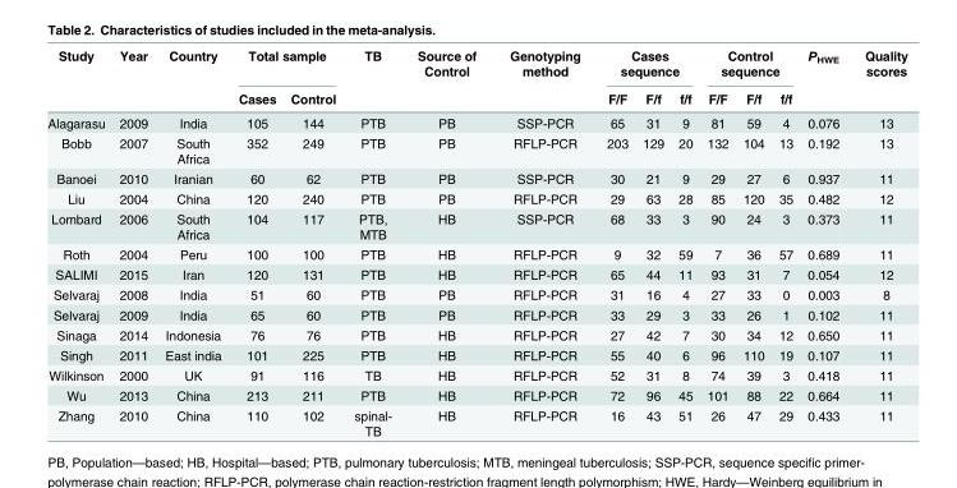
<table><thead><tr><td rowspan="2">Study</td><td rowspan="2">Year</td><td rowspan="2">Country</td><td colspan="2">Total sample</td><td rowspan="2">TB</td><td rowspan="2">Source of Control</td><td rowspan="2">Genotyping method</td><td colspan="3">Cases sequence</td><td colspan="3">Control sequence</td><td rowspan="2">P<sub>HWE</sub></td><td rowspan="2">Quality scores</td></tr><tr><td>Cases</td><td>Control</td><td>F/F</td><td>F/f</td><td>f/f</td><td>F/F</td><td>F/f</td><td>f/f</td></tr></thead><tbody><tr><td>Alagarasu</td><td>2009</td><td>India</td><td>105</td><td>144</td><td>PTB</td><td>PB</td><td>SSP-PCR</td><td>65</td><td>31</td><td>9</td><td>81</td><td>59</td><td>4</td><td>0.076</td><td>13</td></tr><tr><td>Bobb</td><td>2007</td><td>South Africa</td><td>352</td><td>249</td><td>PTB</td><td>PB</td><td>RFLP-PCR</td><td>203</td><td>129</td><td>20</td><td>132</td><td>104</td><td>13</td><td>0.192</td><td>13</td></tr><tr><td>Banoei</td><td>2010</td><td>Iranian</td><td>60</td><td>62</td><td>PTB</td><td>PB</td><td>SSP-PCR</td><td>30</td><td>21</td><td>9</td><td>29</td><td>27</td><td>6</td><td>0.937</td><td>11</td></tr><tr><td>Liu</td><td>2004</td><td>China</td><td>120</td><td>240</td><td>PTB</td><td>PB</td><td>RFLP-PCR</td><td>29</td><td>63</td><td>28</td><td>85</td><td>120</td><td>35</td><td>0.482</td><td>12</td></tr><tr><td>Lombard</td><td>2006</td><td>South Africa</td><td>104</td><td>117</td><td>PTB, MTB</td><td>HB</td><td>SSP-PCR</td><td>68</td><td>33</td><td>3</td><td>90</td><td>24</td><td>3</td><td>0.373</td><td>11</td></tr><tr><td>Roth</td><td>2004</td><td>Peru</td><td>100</td><td>100</td><td>PTB</td><td>HB</td><td>RFLP-PCR</td><td>9</td><td>32</td><td>59</td><td>7</td><td>36</td><td>57</td><td>0.689</td><td>11</td></tr><tr><td>SALIMI</td><td>2015</td><td>Iran</td><td>120</td><td>131</td><td>PTB</td><td>HB</td><td>RFLP-PCR</td><td>65</td><td>44</td><td>11</td><td>93</td><td>31</td><td>7</td><td>0.054</td><td>12</td></tr><tr><td>Selvaraj</td><td>2008</td><td>India</td><td>51</td><td>60</td><td>PTB</td><td>PB</td><td>RFLP-PCR</td><td>31</td><td>16</td><td>4</td><td>27</td><td>33</td><td>0</td><td>0.003</td><td>8</td></tr><tr><td>Selvaraj</td><td>2009</td><td>India</td><td>65</td><td>60</td><td>PTB</td><td>PB</td><td>RFLP-PCR</td><td>33</td><td>29</td><td>3</td><td>33</td><td>26</td><td>1</td><td>0.102</td><td>11</td></tr><tr><td>Sinaga</td><td>2014</td><td>Indonesia</td><td>76</td><td>76</td><td>PTB</td><td>HB</td><td>RFLP-PCR</td><td>27</td><td>42</td><td>7</td><td>30</td><td>34</td><td>12</td><td>0.650</td><td>11</td></tr><tr><td>Singh</td><td>2011</td><td>East india</td><td>101</td><td>225</td><td>PTB</td><td>HB</td><td>RFLP-PCR</td><td>55</td><td>40</td><td>6</td><td>96</td><td>110</td><td>19</td><td>0.107</td><td>11</td></tr><tr><td>Wilkinson</td><td>2000</td><td>UK</td><td>91</td><td>116</td><td>TB</td><td>HB</td><td>RFLP-PCR</td><td>52</td><td>31</td><td>8</td><td>74</td><td>39</td><td>3</td><td>0.418</td><td>11</td></tr><tr><td>Wu</td><td>2013</td><td>China</td><td>213</td><td>211</td><td>PTB</td><td>HB</td><td>RFLP-PCR</td><td>72</td><td>96</td><td>45</td><td>101</td><td>88</td><td>22</td><td>0.664</td><td>11</td></tr><tr><td>Zhang</td><td>2010</td><td>China</td><td>110</td><td>102</td><td>spinal- TB</td><td>HB</td><td>RFLP-PCR</td><td>16</td><td>43</td><td>51</td><td>26</td><td>47</td><td>29</td><td>0.433</td><td>11</td></tr></tbody></table>